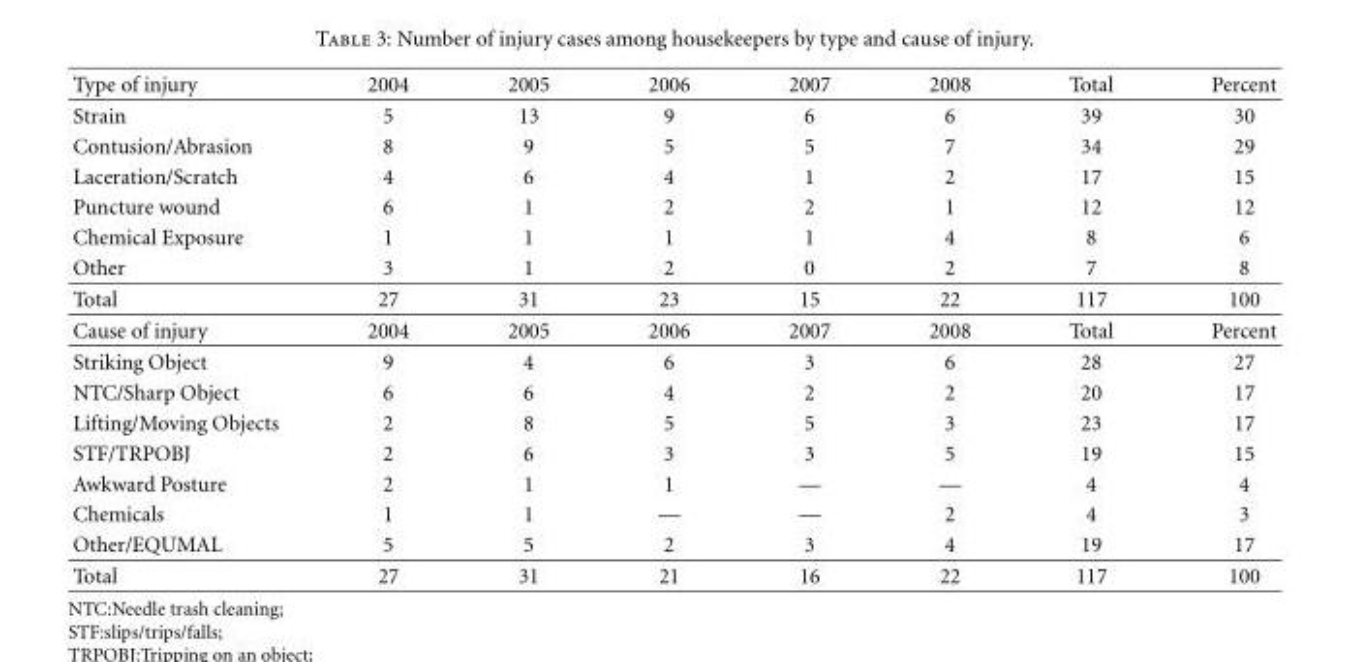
<table><thead><tr><td>Type of injury</td><td>2004</td><td>2005</td><td>2006</td><td>2007</td><td>2008</td><td>Total</td><td>Percent</td></tr></thead><tbody><tr><td>Strain</td><td>5</td><td>13</td><td>9</td><td>6</td><td>6</td><td>39</td><td>30</td></tr><tr><td>Contusion/Abrasion</td><td>8</td><td>9</td><td>5</td><td>5</td><td>7</td><td>34</td><td>29</td></tr><tr><td>Laceration/Scratch</td><td>4</td><td>6</td><td>4</td><td>1</td><td>2</td><td>17</td><td>15</td></tr><tr><td>Puncture wound</td><td>6</td><td>1</td><td>2</td><td>2</td><td>1</td><td>12</td><td>12</td></tr><tr><td>Chemical Exposure</td><td>1</td><td>1</td><td>1</td><td>1</td><td>4</td><td>8</td><td>6</td></tr><tr><td>Other</td><td>3</td><td>1</td><td>2</td><td>0</td><td>2</td><td>7</td><td>8</td></tr><tr><td>Total</td><td>27</td><td>31</td><td>23</td><td>15</td><td>22</td><td>117</td><td>100</td></tr><tr><td>Cause of injury</td><td>2004</td><td>2005</td><td>2006</td><td>2007</td><td>2008</td><td>Total</td><td>Percent</td></tr><tr><td>Striking Object</td><td>9</td><td>4</td><td>6</td><td>3</td><td>6</td><td>28</td><td>27</td></tr><tr><td>NTC/Sharp Object</td><td>6</td><td>6</td><td>4</td><td>2</td><td>2</td><td>20</td><td>17</td></tr><tr><td>Lifting/Moving Objects</td><td>2</td><td>8</td><td>5</td><td>5</td><td>3</td><td>23</td><td>17</td></tr><tr><td>STF/TRPOBJ</td><td>2</td><td>6</td><td>3</td><td>3</td><td>5</td><td>19</td><td>15</td></tr><tr><td>Awkward Posture</td><td>2</td><td>1</td><td>1</td><td>—</td><td>—</td><td>4</td><td>4</td></tr><tr><td>Chemicals</td><td>1</td><td>1</td><td>—</td><td>—</td><td>2</td><td>4</td><td>3</td></tr><tr><td>Other/EQUMAL</td><td>5</td><td>5</td><td>2</td><td>3</td><td>4</td><td>19</td><td>17</td></tr><tr><td>Total</td><td>27</td><td>31</td><td>21</td><td>16</td><td>22</td><td>117</td><td>100</td></tr></tbody></table>